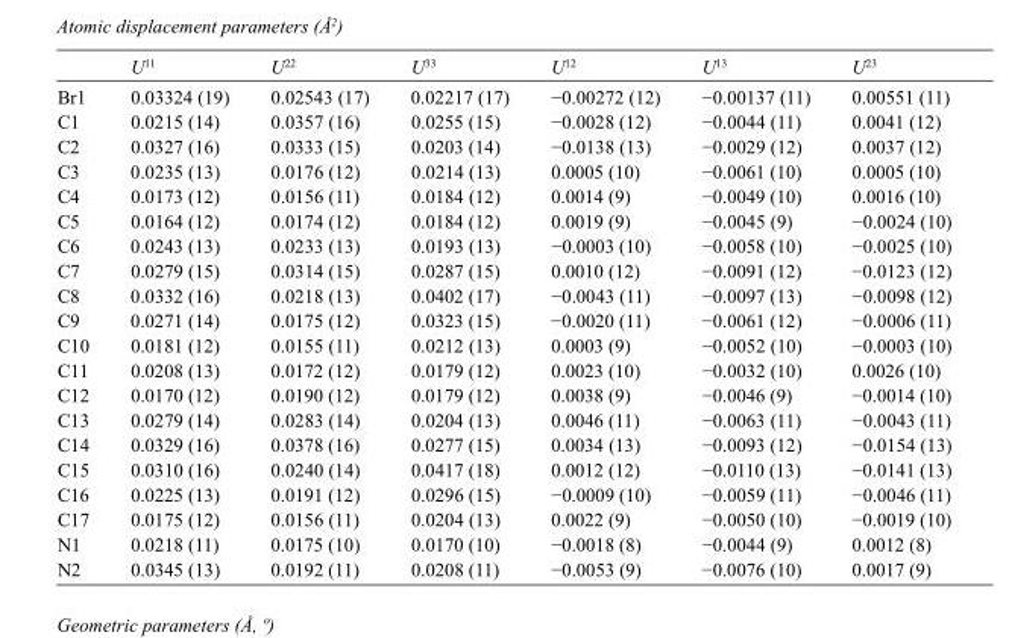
<table><thead><tr><td></td><td>U<sup>11</sup></td><td>U<sup>22</sup></td><td>U<sup>33</sup></td><td>U<sup>12</sup></td><td>U<sup>13</sup></td><td>U<sup>23</sup></td></tr></thead><tbody><tr><td>Br1</td><td>0.03324 (19)</td><td>0.02543 (17)</td><td>0.02217 (17)</td><td>−0.00272 (12)</td><td>−0.00137 (11)</td><td>0.00551 (11)</td></tr><tr><td>C1</td><td>0.0215 (14)</td><td>0.0357 (16)</td><td>0.0255 (15)</td><td>−0.0028 (12)</td><td>−0.0044 (11)</td><td>0.0041 (12)</td></tr><tr><td>C2</td><td>0.0327 (16)</td><td>0.0333 (15)</td><td>0.0203 (14)</td><td>−0.0138 (13)</td><td>−0.0029 (12)</td><td>0.0037 (12)</td></tr><tr><td>C3</td><td>0.0235 (13)</td><td>0.0176 (12)</td><td>0.0214 (13)</td><td>0.0005 (10)</td><td>−0.0061 (10)</td><td>0.0005 (10)</td></tr><tr><td>C4</td><td>0.0173 (12)</td><td>0.0156 (11)</td><td>0.0184 (12)</td><td>0.0014 (9)</td><td>−0.0049 (10)</td><td>0.0016 (10)</td></tr><tr><td>C5</td><td>0.0164 (12)</td><td>0.0174 (12)</td><td>0.0184 (12)</td><td>0.0019 (9)</td><td>−0.0045 (9)</td><td>−0.0024 (10)</td></tr><tr><td>C6</td><td>0.0243 (13)</td><td>0.0233 (13)</td><td>0.0193 (13)</td><td>−0.0003 (10)</td><td>−0.0058 (10)</td><td>−0.0025 (10)</td></tr><tr><td>C7</td><td>0.0279 (15)</td><td>0.0314 (15)</td><td>0.0287 (15)</td><td>0.0010 (12)</td><td>−0.0091 (12)</td><td>−0.0123 (12)</td></tr><tr><td>C8</td><td>0.0332 (16)</td><td>0.0218 (13)</td><td>0.0402 (17)</td><td>−0.0043 (11)</td><td>−0.0097 (13)</td><td>−0.0098 (12)</td></tr><tr><td>C9</td><td>0.0271 (14)</td><td>0.0175 (12)</td><td>0.0323 (15)</td><td>−0.0020 (11)</td><td>−0.0061 (12)</td><td>−0.0006 (11)</td></tr><tr><td>C10</td><td>0.0181 (12)</td><td>0.0155 (11)</td><td>0.0212 (13)</td><td>0.0003 (9)</td><td>−0.0052 (10)</td><td>−0.0003 (10)</td></tr><tr><td>C11</td><td>0.0208 (13)</td><td>0.0172 (12)</td><td>0.0179 (12)</td><td>0.0023 (10)</td><td>−0.0032 (10)</td><td>0.0026 (10)</td></tr><tr><td>C12</td><td>0.0170 (12)</td><td>0.0190 (12)</td><td>0.0179 (12)</td><td>0.0038 (9)</td><td>−0.0046 (9)</td><td>−0.0014 (10)</td></tr><tr><td>C13</td><td>0.0279 (14)</td><td>0.0283 (14)</td><td>0.0204 (13)</td><td>0.0046 (11)</td><td>−0.0063 (11)</td><td>−0.0043 (11)</td></tr><tr><td>C14</td><td>0.0329 (16)</td><td>0.0378 (16)</td><td>0.0277 (15)</td><td>0.0034 (13)</td><td>−0.0093 (12)</td><td>−0.0154 (13)</td></tr><tr><td>C15</td><td>0.0310 (16)</td><td>0.0240 (14)</td><td>0.0417 (18)</td><td>0.0012 (12)</td><td>−0.0110 (13)</td><td>−0.0141 (13)</td></tr><tr><td>C16</td><td>0.0225 (13)</td><td>0.0191 (12)</td><td>0.0296 (15)</td><td>−0.0009 (10)</td><td>−0.0059 (11)</td><td>−0.0046 (11)</td></tr><tr><td>C17</td><td>0.0175 (12)</td><td>0.0156 (11)</td><td>0.0204 (13)</td><td>0.0022 (9)</td><td>−0.0050 (10)</td><td>−0.0019 (10)</td></tr><tr><td>N1</td><td>0.0218 (11)</td><td>0.0175 (10)</td><td>0.0170 (10)</td><td>−0.0018 (8)</td><td>−0.0044 (9)</td><td>0.0012 (8)</td></tr><tr><td>N2</td><td>0.0345 (13)</td><td>0.0192 (11)</td><td>0.0208 (11)</td><td>−0.0053 (9)</td><td>−0.0076 (10)</td><td>0.0017 (9)</td></tr></tbody></table>